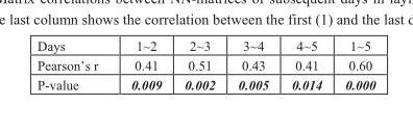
<table><tbody><tr><td>Days</td><td>1~2</td><td>2~3</td><td>3~4</td><td>4~5</td><td>1~5</td></tr><tr><td>Pearson’s r</td><td>0.41</td><td>0.51</td><td>0.43</td><td>0.41</td><td>0.60</td></tr><tr><td>P-value</td><td>0.009</td><td>0.002</td><td>0.005</td><td>0.014</td><td>0.000</td></tr></tbody></table>